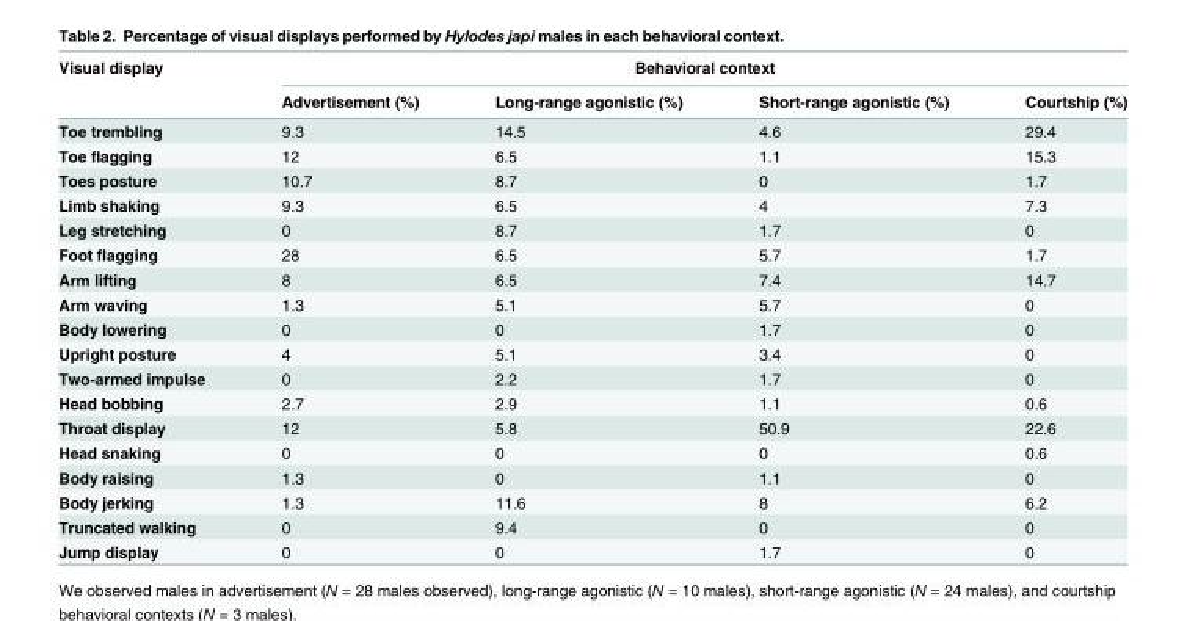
<table><thead><tr><td rowspan="2">Visual display</td><td colspan="4">Behavioral context</td></tr><tr><td>Advertisement (%)</td><td>Long-range agonistic (%)</td><td>Short-range agonistic (%)</td><td>Courtship (%)</td></tr></thead><tbody><tr><td>Toe trembling</td><td>9.3</td><td>14.5</td><td>4.6</td><td>29.4</td></tr><tr><td>Toe flagging</td><td>12</td><td>6.5</td><td>1.1</td><td>15.3</td></tr><tr><td>Toes posture</td><td>10.7</td><td>8.7</td><td>0</td><td>1.7</td></tr><tr><td>Limb shaking</td><td>9.3</td><td>6.5</td><td>4</td><td>7.3</td></tr><tr><td>Leg stretching</td><td>0</td><td>8.7</td><td>1.7</td><td>0</td></tr><tr><td>Foot flagging</td><td>28</td><td>6.5</td><td>5.7</td><td>1.7</td></tr><tr><td>Arm lifting</td><td>8</td><td>6.5</td><td>7.4</td><td>14.7</td></tr><tr><td>Arm waving</td><td>1.3</td><td>5.1</td><td>5.7</td><td>0</td></tr><tr><td>Body lowering</td><td>0</td><td>0</td><td>1.7</td><td>0</td></tr><tr><td>Upright posture</td><td>4</td><td>5.1</td><td>3.4</td><td>0</td></tr><tr><td>Two-armed impulse</td><td>0</td><td>2.2</td><td>1.7</td><td>0</td></tr><tr><td>Head bobbing</td><td>2.7</td><td>2.9</td><td>1.1</td><td>0.6</td></tr><tr><td>Throat display</td><td>12</td><td>5.8</td><td>50.9</td><td>22.6</td></tr><tr><td>Head snaking</td><td>0</td><td>0</td><td>0</td><td>0.6</td></tr><tr><td>Body raising</td><td>1.3</td><td>0</td><td>1.1</td><td>0</td></tr><tr><td>Body jerking</td><td>1.3</td><td>11.6</td><td>8</td><td>6.2</td></tr><tr><td>Truncated walking</td><td>0</td><td>9.4</td><td>0</td><td>0</td></tr><tr><td>Jump display</td><td>0</td><td>0</td><td>1.7</td><td>0</td></tr></tbody></table>